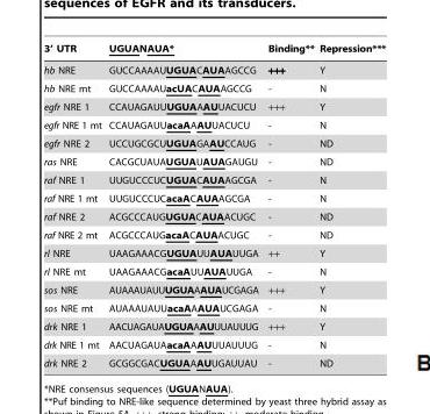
<table><thead><tr><td>3’ UTR</td><td>UGUANAUA*</td><td>Binding**</td><td>Repression***</td></tr></thead><tbody><tr><td>hb NRE</td><td>GUCCAAAAUUGUACAUAAGCCG</td><td>+++</td><td>Y</td></tr><tr><td>hb NRE mt</td><td>GUCCAAAAUacUACAUAAGCCG</td><td>-</td><td>N</td></tr><tr><td>egfr NRE 1</td><td>CCAUAGAUUUGUAAAUUACUCU</td><td>+++</td><td>Y</td></tr><tr><td>egfr NRE 1 mt</td><td>CCAUAGAUUacaAAAUUACUCU</td><td>-</td><td>N</td></tr><tr><td>egfr NRE 2</td><td>UCCUGCGCUUGUAGAAUCCAUG</td><td>-</td><td>ND</td></tr><tr><td>ras NRE</td><td>CACGCUAUAUGUAUAUAGAUGU</td><td>-</td><td>ND</td></tr><tr><td>raf NRE 1</td><td>UUGUCCCUCUGUACAUAAGCGA</td><td>-</td><td>N</td></tr><tr><td>raf NRE 1 mt</td><td>UUGUCCCUCacaACAUAAGCGA</td><td>-</td><td>N</td></tr><tr><td>raf NRE 2</td><td>ACGCCCAUGUGUACAUAACUGC</td><td>-</td><td>ND</td></tr><tr><td>raf NRE 2 mt</td><td>ACGCCCAUGacaACAUAACUGC</td><td>-</td><td>ND</td></tr><tr><td>rl NRE</td><td>UAAGAAACGUGUAUUAUAUUGA</td><td>++</td><td>Y</td></tr><tr><td>rl NRE mt</td><td>UAAGAAACGacaAUUAUAUUGA</td><td>-</td><td>N</td></tr><tr><td>sos NRE</td><td>AUAAAUAUUUGUAAAUAUCGAGA</td><td>+++</td><td>Y</td></tr><tr><td>sos NRE mt</td><td>AUAAAUAUUacaAAAUAUCGAGA</td><td>-</td><td>N</td></tr><tr><td>drk NRE 1</td><td>AACUAGAUAUGUAAAUUUAUUUG</td><td>+++</td><td>Y</td></tr><tr><td>drk NRE 1 mt</td><td>AACUAGAUAacaAAAUUUAUUUG</td><td>-</td><td>N</td></tr><tr><td>drk NRE 2</td><td>GCGGCGACUGUAAAUUGAUUAU</td><td>-</td><td>ND</td></tr></tbody></table>